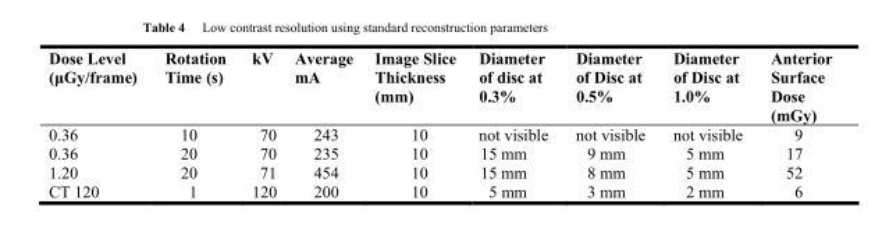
<table><thead><tr><td>Dose Level (µGy/frame)</td><td>Rotation Time (s)</td><td>kV</td><td>Average mA</td><td>Image Slice Thickness (mm)</td><td>Diameter of disc at 0.3%</td><td>Diameter of Disc at 0.5%</td><td>Diameter of Disc at 1.0%</td><td>Anterior Surface Dose (mGy)</td></tr></thead><tbody><tr><td>0.36</td><td>10</td><td>70</td><td>243</td><td>10</td><td>not visible</td><td>not visible</td><td>not visible</td><td>9</td></tr><tr><td>0.36</td><td>20</td><td>70</td><td>235</td><td>10</td><td>15 mm</td><td>9 mm</td><td>5 mm</td><td>17</td></tr><tr><td>1.20</td><td>20</td><td>71</td><td>454</td><td>10</td><td>15 mm</td><td>8 mm</td><td>5 mm</td><td>52</td></tr><tr><td>CT 120</td><td>1</td><td>120</td><td>200</td><td>10</td><td>5 mm</td><td>3 mm</td><td>2 mm</td><td>6</td></tr></tbody></table>